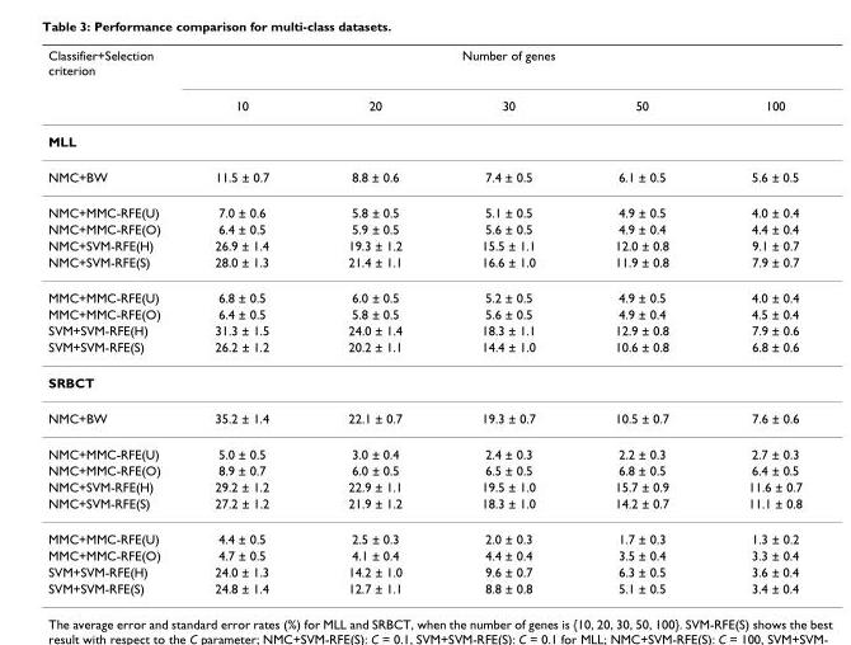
<table><thead><tr><td rowspan="2">Classifier+Selection criterion</td><td colspan="5">Number of genes</td></tr><tr><td>10</td><td>20</td><td>30</td><td>50</td><td>100</td></tr></thead><tbody><tr><td colspan="6">MLL</td></tr><tr><td>NMC+BW</td><td>11.5 ± 0.7</td><td>8.8 ± 0.6</td><td>7.4 ± 0.5</td><td>6.1 ± 0.5</td><td>5.6 ± 0.5</td></tr><tr><td>NMC+MMC-RFE(U)</td><td>7.0 ± 0.6</td><td>5.8 ± 0.5</td><td>5.1 ± 0.5</td><td>4.9 ± 0.5</td><td>4.0 ± 0.4</td></tr><tr><td>NMC+MMC-RFE(O)</td><td>6.4 ± 0.5</td><td>5.9 ± 0.5</td><td>5.6 ± 0.5</td><td>4.9 ± 0.4</td><td>4.4 ± 0.4</td></tr><tr><td>NMC+SVM-RFE(H)</td><td>26.9 ± 1.4</td><td>19.3 ± 1.2</td><td>15.5 ± 1.1</td><td>12.0 ± 0.8</td><td>9.1 ± 0.7</td></tr><tr><td>NMC+SVM-RFE(S)</td><td>28.0 ± 1.3</td><td>21.4 ± 1.1</td><td>16.6 ± 1.0</td><td>11.9 ± 0.8</td><td>7.9 ± 0.7</td></tr><tr><td>MMC+MMC-RFE(U)</td><td>6.8 ± 0.5</td><td>6.0 ± 0.5</td><td>5.2 ± 0.5</td><td>4.9 ± 0.5</td><td>4.0 ± 0.4</td></tr><tr><td>MMC+MMC-RFE(O)</td><td>6.4 ± 0.5</td><td>5.8 ± 0.5</td><td>5.6 ± 0.5</td><td>4.9 ± 0.4</td><td>4.5 ± 0.4</td></tr><tr><td>SVM+SVM-RFE(H)</td><td>31.3 ± 1.5</td><td>24.0 ± 1.4</td><td>18.3 ± 1.1</td><td>12.9 ± 0.8</td><td>7.9 ± 0.6</td></tr><tr><td>SVM+SVM-RFE(S)</td><td>26.2 ± 1.2</td><td>20.2 ± 1.1</td><td>14.4 ± 1.0</td><td>10.6 ± 0.8</td><td>6.8 ± 0.6</td></tr><tr><td colspan="6">SRBCT</td></tr><tr><td>NMC+BW</td><td>35.2 ± 1.4</td><td>22.1 ± 0.7</td><td>19.3 ± 0.7</td><td>10.5 ± 0.7</td><td>7.6 ± 0.6</td></tr><tr><td>NMC+MMC-RFE(U)</td><td>5.0 ± 0.5</td><td>3.0 ± 0.4</td><td>2.4 ± 0.3</td><td>2.2 ± 0.3</td><td>2.7 ± 0.3</td></tr><tr><td>NMC+MMC-RFE(O)</td><td>8.9 ± 0.7</td><td>6.0 ± 0.5</td><td>6.5 ± 0.5</td><td>6.8 ± 0.5</td><td>6.4 ± 0.5</td></tr><tr><td>NMC+SVM-RFE(H)</td><td>29.2 ± 1.2</td><td>22.9 ± 1.1</td><td>19.5 ± 1.0</td><td>15.7 ± 0.9</td><td>11.6 ± 0.7</td></tr><tr><td>NMC+SVM-RFE(S)</td><td>27.2 ± 1.2</td><td>21.9 ± 1.2</td><td>18.3 ± 1.0</td><td>14.2 ± 0.7</td><td>11.1 ± 0.8</td></tr><tr><td>MMC+MMC-RFE(U)</td><td>4.4 ± 0.5</td><td>2.5 ± 0.3</td><td>2.0 ± 0.3</td><td>1.7 ± 0.3</td><td>1.3 ± 0.2</td></tr><tr><td>MMC+MMC-RFE(O)</td><td>4.7 ± 0.5</td><td>4.1 ± 0.4</td><td>4.4 ± 0.4</td><td>3.5 ± 0.4</td><td>3.3 ± 0.4</td></tr><tr><td>SVM+SVM-RFE(H)</td><td>24.0 ± 1.3</td><td>14.2 ± 1.0</td><td>9.6 ± 0.7</td><td>6.3 ± 0.5</td><td>3.6 ± 0.4</td></tr><tr><td>SVM+SVM-RFE(S)</td><td>24.8 ± 1.4</td><td>12.7 ± 1.1</td><td>8.8 ± 0.8</td><td>5.1 ± 0.5</td><td>3.4 ± 0.4</td></tr></tbody></table>